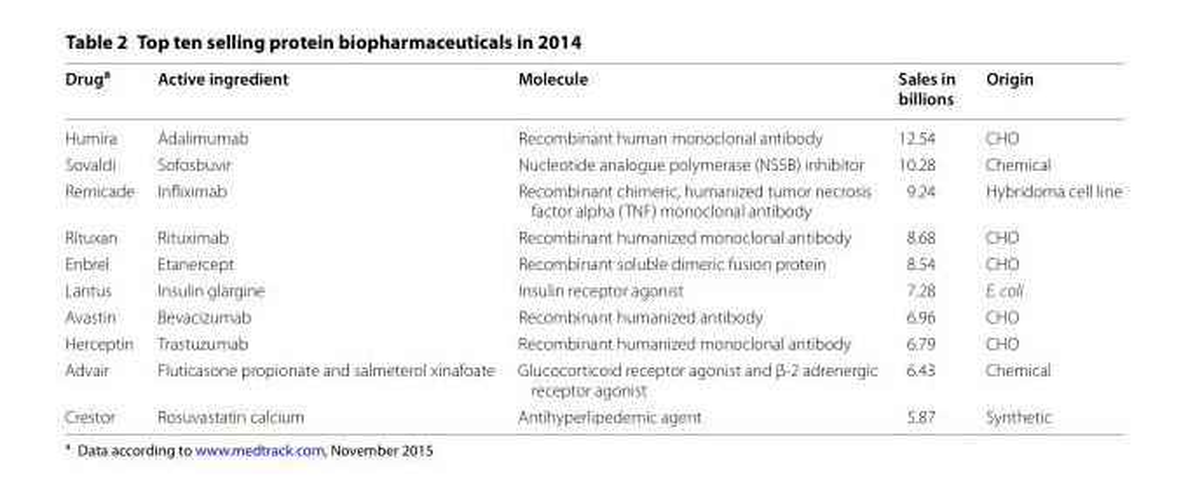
<table><thead><tr><td>Drug<sup>a</sup></td><td>Active ingredient</td><td>Molecule</td><td>Sales in billions</td><td>Origin</td></tr></thead><tbody><tr><td>Humira</td><td>Adalimumab</td><td>Recombinant human monoclonal antibody</td><td>12.54</td><td>CHO</td></tr><tr><td>Sovaldi</td><td>Sofosbuvir</td><td>Nucleotide analogue polymerase (NS5B) inhibitor</td><td>10.28</td><td>Chemical</td></tr><tr><td>Remicade</td><td>Infliximab</td><td>Recombinant chimeric, humanized tumor necrosis factor alpha (TNF) monoclonal antibody</td><td>9.24</td><td>Hybridoma cell line</td></tr><tr><td>Rituxan</td><td>Rituximab</td><td>Recombinant humanized monoclonal antibody</td><td>8.68</td><td>CHO</td></tr><tr><td>Enbrel</td><td>Etanercept</td><td>Recombinant soluble dimeric fusion protein</td><td>8.54</td><td>CHO</td></tr><tr><td>Lantus</td><td>Insulin glargine</td><td>Insulin receptor agonist</td><td>7.28</td><td>E. coli</td></tr><tr><td>Avastin</td><td>Bevacizumab</td><td>Recombinant humanized antibody</td><td>6.96</td><td>CHO</td></tr><tr><td>Herceptin</td><td>Trastuzumab</td><td>Recombinant humanized monoclonal antibody</td><td>6.79</td><td>CHO</td></tr><tr><td>Advair</td><td>Fluticasone propionate and salmeterol xinafoate</td><td>Glucocorticoid receptor agonist and β‑2 adrenergic receptor agonist</td><td>6.43</td><td>Chemical</td></tr><tr><td>Crestor</td><td>Rosuvastatin calcium</td><td>Antihyperlipedemic agent</td><td>5.87</td><td>Synthetic</td></tr></tbody></table>